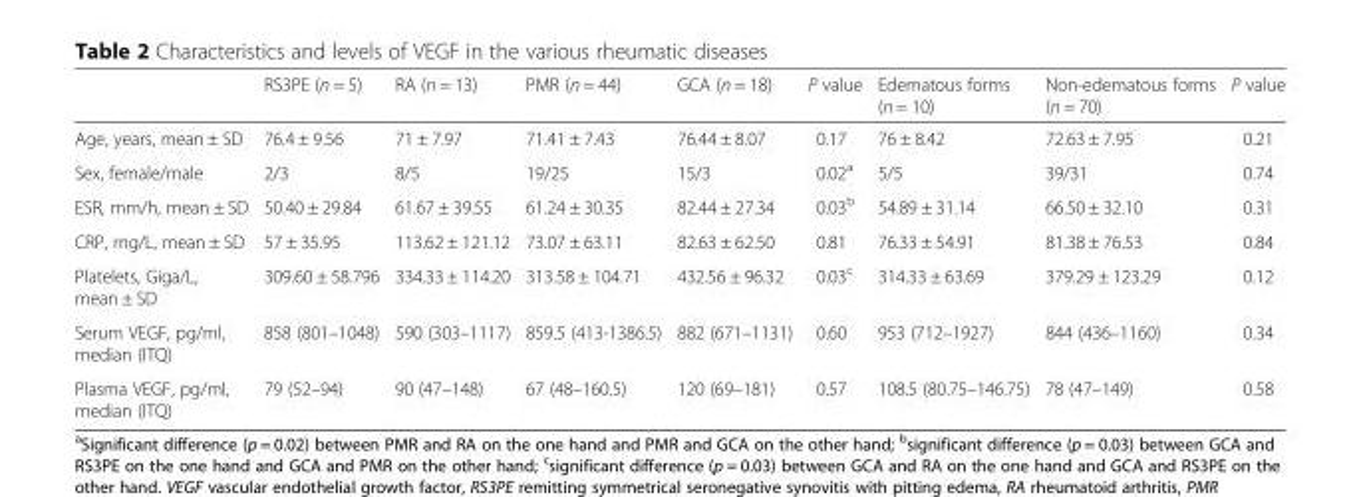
<table><thead><tr><td></td><td>RS3PE (n = 5)</td><td>RA (n = 13)</td><td>PMR (n = 44)</td><td>GCA (n = 18)</td><td>P value</td><td>Edematous forms (n = 10)</td><td>Non-edematous forms (n = 70)</td><td>P value</td></tr></thead><tbody><tr><td>Age, years, mean ± SD</td><td>76.4 ± 9.56</td><td>71 ± 7.97</td><td>71.41 ± 7.43</td><td>76.44 ± 8.07</td><td>0.17</td><td>76 ± 8.42</td><td>72.63 ± 7.95</td><td>0.21</td></tr><tr><td>Sex, female/male</td><td>2/3</td><td>8/5</td><td>19/25</td><td>15/3</td><td>0.02<sup>a</sup></td><td>5/5</td><td>39/31</td><td>0.74</td></tr><tr><td>ESR, mm/h, mean ± SD</td><td>50.40 ± 29.84</td><td>61.67 ± 39.55</td><td>61.24 ± 30.35</td><td>82.44 ± 27.34</td><td>0.03<sup>b</sup></td><td>54.89 ± 31.14</td><td>66.50 ± 32.10</td><td>0.31</td></tr><tr><td>CRP, mg/L, mean ± SD</td><td>57 ± 35.95</td><td>113.62 ± 121.12</td><td>73.07 ± 63.11</td><td>82.63 ± 62.50</td><td>0.81</td><td>76.33 ± 54.91</td><td>81.38 ± 76.53</td><td>0.84</td></tr><tr><td>Platelets, Giga/L, mean ± SD</td><td>309.60 ± 58.796</td><td>334.33 ± 114.20</td><td>313.58 ± 104.71</td><td>432.56 ± 96.32</td><td>0.03<sup>c</sup></td><td>314.33 ± 63.69</td><td>379.29 ± 123.29</td><td>0.12</td></tr><tr><td>Serum VEGF, pg/ml, median (ITQ)</td><td>858 (801–1048)</td><td>590 (303–1117)</td><td>859.5 (413-1386.5)</td><td>882 (671–1131)</td><td>0.60</td><td>953 (712–1927)</td><td>844 (436–1160)</td><td>0.34</td></tr><tr><td>Plasma VEGF, pg/ml, median (ITQ)</td><td>79 (52–94)</td><td>90 (47–148)</td><td>67 (48–160.5)</td><td>120 (69–181)</td><td>0.57</td><td>108.5 (80.75–146.75)</td><td>78 (47–149)</td><td>0.58</td></tr></tbody></table>